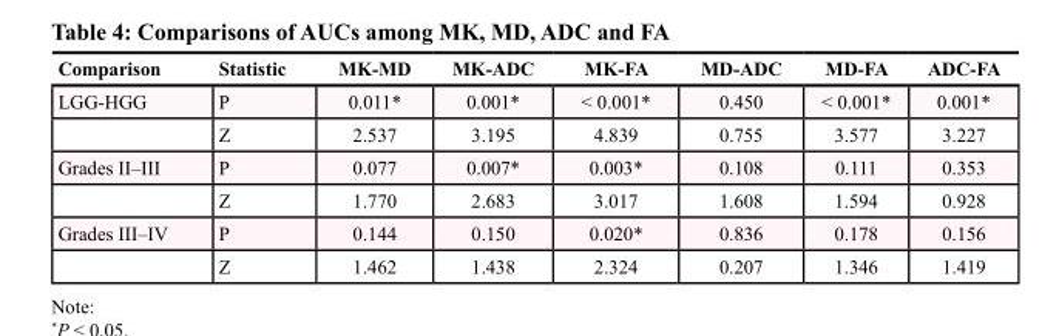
<table><thead><tr><td>Comparison</td><td>Statistic</td><td>MK-MD</td><td>MK-ADC</td><td>MK-FA</td><td>MD-ADC</td><td>MD-FA</td><td>ADC-FA</td></tr></thead><tbody><tr><td rowspan="2">LGG-HGG</td><td>P</td><td>0.011*</td><td>0.001*</td><td>&lt; 0.001*</td><td>0.450</td><td>&lt; 0.001*</td><td>0.001*</td></tr><tr><td>Z</td><td>2.537</td><td>3.195</td><td>4.839</td><td>0.755</td><td>3.577</td><td>3.227</td></tr><tr><td rowspan="2">Grades II–III</td><td>P</td><td>0.077</td><td>0.007*</td><td>0.003*</td><td>0.108</td><td>0.111</td><td>0.353</td></tr><tr><td>Z</td><td>1.770</td><td>2.683</td><td>3.017</td><td>1.608</td><td>1.594</td><td>0.928</td></tr><tr><td rowspan="2">Grades III–IV</td><td>P</td><td>0.144</td><td>0.150</td><td>0.020*</td><td>0.836</td><td>0.178</td><td>0.156</td></tr><tr><td>Z</td><td>1.462</td><td>1.438</td><td>2.324</td><td>0.207</td><td>1.346</td><td>1.419</td></tr></tbody></table>